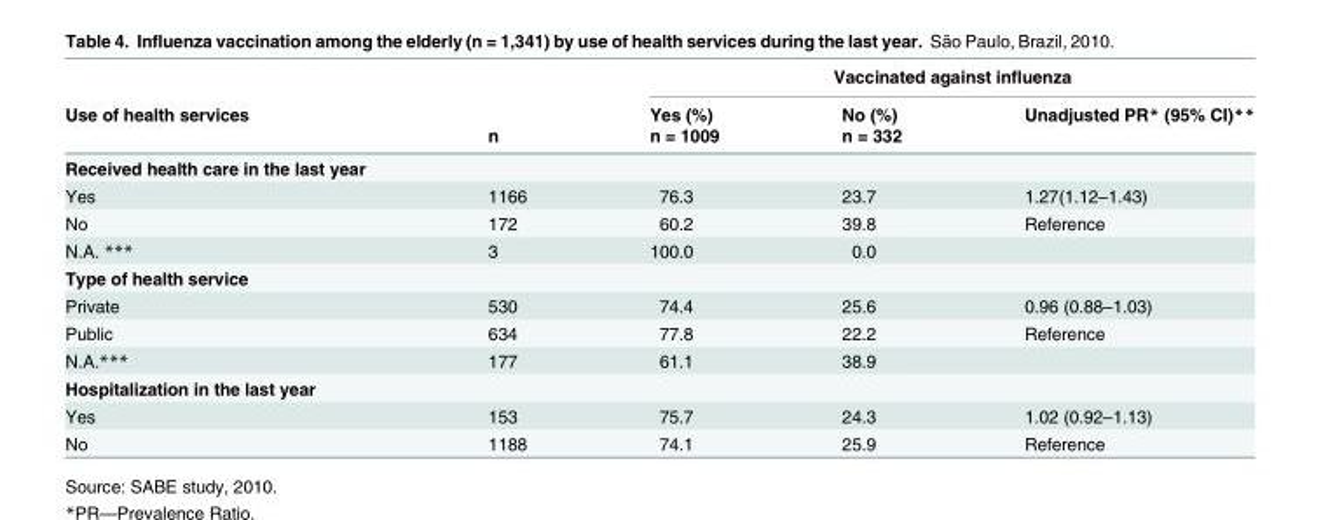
<table><thead><tr><td rowspan="3">Use of health services</td><td rowspan="3">n</td><td colspan="3">Vaccinated against influenza</td></tr><tr><td rowspan="2">Yes (%) n = 1009</td><td rowspan="2">No (%) n = 332</td><td rowspan="2">Unadjusted PR* (95% CI)**</td></tr><tr></tr></thead><tbody><tr><td colspan="5">Received health care in the last year</td></tr><tr><td>Yes</td><td>1166</td><td>76.3</td><td>23.7</td><td>1.27(1.12–1.43)</td></tr><tr><td>No</td><td>172</td><td>60.2</td><td>39.8</td><td>Reference</td></tr><tr><td>N.A. ***</td><td>3</td><td>100.0</td><td>0.0</td><td></td></tr><tr><td colspan="5">Type of health service</td></tr><tr><td>Private</td><td>530</td><td>74.4</td><td>25.6</td><td>0.96 (0.88–1.03)</td></tr><tr><td>Public</td><td>634</td><td>77.8</td><td>22.2</td><td>Reference</td></tr><tr><td>N.A.***</td><td>177</td><td>61.1</td><td>38.9</td><td></td></tr><tr><td colspan="5">Hospitalization in the last year</td></tr><tr><td>Yes</td><td>153</td><td>75.7</td><td>24.3</td><td>1.02 (0.92–1.13)</td></tr><tr><td>No</td><td>1188</td><td>74.1</td><td>25.9</td><td>Reference</td></tr></tbody></table>